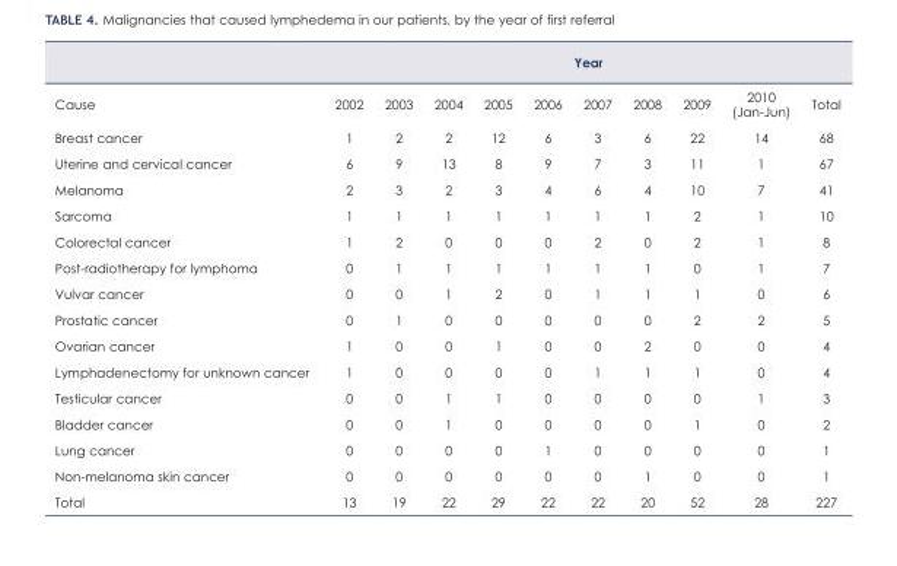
<table><thead><tr><td rowspan="2">Cause</td><td colspan="10">Year</td></tr><tr><td>2002</td><td>2003</td><td>2004</td><td>2005</td><td>2006</td><td>2007</td><td>2008</td><td>2009</td><td>2010 (Jan-Jun)</td><td>Total</td></tr></thead><tbody><tr><td>Breast cancer</td><td>1</td><td>2</td><td>2</td><td>12</td><td>6</td><td>3</td><td>6</td><td>22</td><td>14</td><td>68</td></tr><tr><td>Uterine and cervical cancer</td><td>6</td><td>9</td><td>13</td><td>8</td><td>9</td><td>7</td><td>3</td><td>11</td><td>1</td><td>67</td></tr><tr><td>Melanoma</td><td>2</td><td>3</td><td>2</td><td>3</td><td>4</td><td>6</td><td>4</td><td>10</td><td>7</td><td>41</td></tr><tr><td>Sarcoma</td><td>1</td><td>1</td><td>1</td><td>1</td><td>1</td><td>1</td><td>1</td><td>2</td><td>1</td><td>10</td></tr><tr><td>Colorectal cancer</td><td>1</td><td>2</td><td>0</td><td>0</td><td>0</td><td>2</td><td>0</td><td>2</td><td>1</td><td>8</td></tr><tr><td>Post-radiotherapy for lymphoma</td><td>0</td><td>1</td><td>1</td><td>1</td><td>1</td><td>1</td><td>1</td><td>0</td><td>1</td><td>7</td></tr><tr><td>Vulvar cancer</td><td>0</td><td>0</td><td>1</td><td>2</td><td>0</td><td>1</td><td>1</td><td>1</td><td>0</td><td>6</td></tr><tr><td>Prostatic cancer</td><td>0</td><td>1</td><td>0</td><td>0</td><td>0</td><td>0</td><td>0</td><td>2</td><td>2</td><td>5</td></tr><tr><td>Ovarian cancer</td><td>1</td><td>0</td><td>0</td><td>1</td><td>0</td><td>0</td><td>2</td><td>0</td><td>0</td><td>4</td></tr><tr><td>Lymphadenectomy for unknown cancer</td><td>1</td><td>0</td><td>0</td><td>0</td><td>0</td><td>1</td><td>1</td><td>1</td><td>0</td><td>4</td></tr><tr><td>Testicular cancer</td><td>0</td><td>0</td><td>1</td><td>1</td><td>0</td><td>0</td><td>0</td><td>0</td><td>1</td><td>3</td></tr><tr><td>Bladder cancer</td><td>0</td><td>0</td><td>1</td><td>0</td><td>0</td><td>0</td><td>0</td><td>1</td><td>0</td><td>2</td></tr><tr><td>Lung cancer</td><td>0</td><td>0</td><td>0</td><td>0</td><td>1</td><td>0</td><td>0</td><td>0</td><td>0</td><td>1</td></tr><tr><td>Non-melanoma skin cancer</td><td>0</td><td>0</td><td>0</td><td>0</td><td>0</td><td>0</td><td>1</td><td>0</td><td>0</td><td>1</td></tr><tr><td>Total</td><td>13</td><td>19</td><td>22</td><td>29</td><td>22</td><td>22</td><td>20</td><td>52</td><td>28</td><td>227</td></tr></tbody></table>